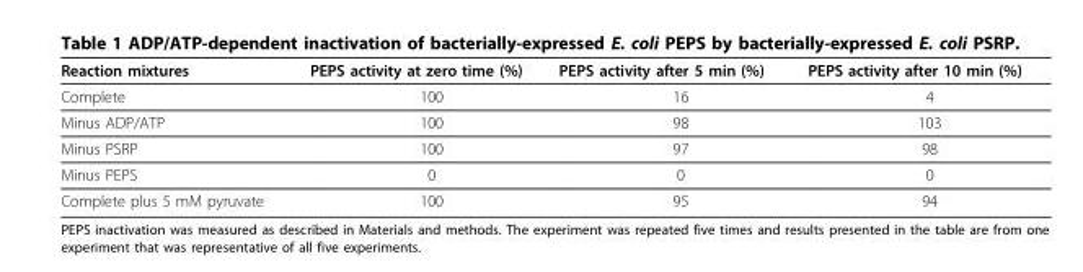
<table><thead><tr><td>Reaction mixtures</td><td>PEPS activity at zero time (%)</td><td>PEPS activity after 5 min (%)</td><td>PEPS activity after 10 min (%)</td></tr></thead><tbody><tr><td>Complete</td><td>100</td><td>16</td><td>4</td></tr><tr><td>Minus ADP/ATP</td><td>100</td><td>98</td><td>103</td></tr><tr><td>Minus PSRP</td><td>100</td><td>97</td><td>98</td></tr><tr><td>Minus PEPS</td><td>0</td><td>0</td><td>0</td></tr><tr><td>Complete plus 5 mM pyruvate</td><td>100</td><td>95</td><td>94</td></tr></tbody></table>